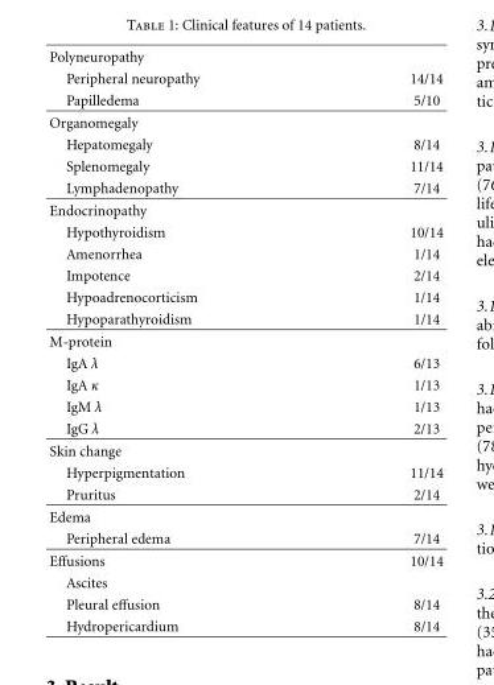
<table><tbody><tr><td colspan="2">Polyneuropathy</td></tr><tr><td>Peripheral neuropathy</td><td>14/14</td></tr><tr><td>Papilledema</td><td>5/10</td></tr><tr><td colspan="2">Organomegaly</td></tr><tr><td>Hepatomegaly</td><td>8/14</td></tr><tr><td>Splenomegaly</td><td>11/14</td></tr><tr><td>Lymphadenopathy</td><td>7/14</td></tr><tr><td colspan="2">Endocrinopathy</td></tr><tr><td>Hypothyroidism</td><td>10/14</td></tr><tr><td>Amenorrhea</td><td>1/14</td></tr><tr><td>Impotence</td><td>2/14</td></tr><tr><td>Hypoadrenocorticism</td><td>1/14</td></tr><tr><td>Hypoparathyroidism</td><td>1/14</td></tr><tr><td colspan="2">M-protein</td></tr><tr><td>IgA λ</td><td>6/13</td></tr><tr><td>IgA κ</td><td>1/13</td></tr><tr><td>IgM λ</td><td>1/13</td></tr><tr><td>IgG λ</td><td>2/13</td></tr><tr><td colspan="2">Skin change</td></tr><tr><td>Hyperpigmentation</td><td>11/14</td></tr><tr><td>Pruritus</td><td>2/14</td></tr><tr><td colspan="2">Edema</td></tr><tr><td>Peripheral edema</td><td>7/14</td></tr><tr><td>Effusions</td><td>10/14</td></tr><tr><td colspan="2">Ascites</td></tr><tr><td>Pleural effusion</td><td>8/14</td></tr><tr><td>Hydropericardium</td><td>8/14</td></tr></tbody></table>